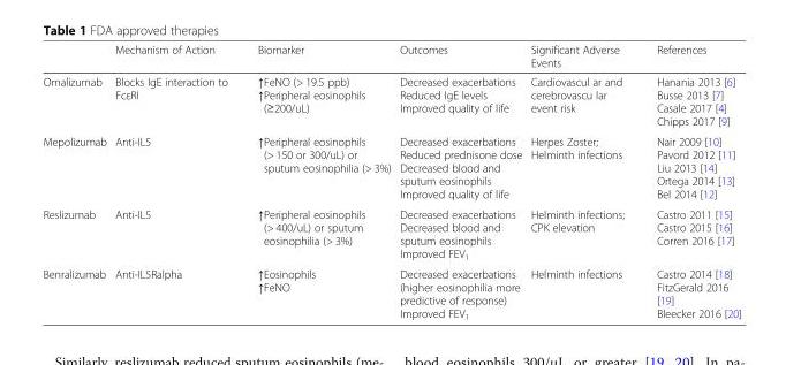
<table><thead><tr><td></td><td>Mechanism of Action</td><td>Biomarker</td><td>Outcomes</td><td>Significant Adverse Events</td><td>References</td></tr></thead><tbody><tr><td>Omalizumab</td><td>Blocks IgE interaction to FcεRI</td><td>↑FeNO (&gt; 19.5 ppb) ↑Peripheral eosinophils (≥200/uL)</td><td>Decreased exacerbations Reduced IgE levels Improved quality of life</td><td>Cardiovascul ar and cerebrovascu lar event risk</td><td>Hanania 2013 [6] Busse 2013 [7] Casale 2017 [4] Chipps 2017 [9]</td></tr><tr><td>Mepolizumab</td><td>Anti-IL5</td><td>↑Peripheral eosinophils (&gt; 150 or 300/uL) or sputum eosinophilia (&gt; 3%)</td><td>Decreased exacerbations Reduced prednisone dose Decreased blood and sputum eosinophils Improved quality of life</td><td>Herpes Zoster; Helminth infections</td><td>Nair 2009 [10] Pavord 2012 [11] Liu 2013 [14] Ortega 2014 [13] Bel 2014 [12]</td></tr><tr><td>Reslizumab</td><td>Anti-IL5</td><td>↑Peripheral eosinophils (&gt; 400/uL) or sputum eosinophilia (&gt; 3%)</td><td>Decreased exacerbations Decreased blood and sputum eosinophils Improved FEV<sub>1</sub></td><td>Helminth infections; CPK elevation</td><td>Castro 2011 [15] Castro 2015 [16] Corren 2016 [17]</td></tr><tr><td>Benralizumab</td><td>Anti-IL5Ralpha</td><td>↑Eosinophils ↑FeNO</td><td>Decreased exacerbations (higher eosinophilia more predictive of response) Improved FEV<sub>1</sub></td><td>Helminth infections</td><td>Castro 2014 [18] FitzGerald 2016 [19] Bleecker 2016 [20]</td></tr></tbody></table>